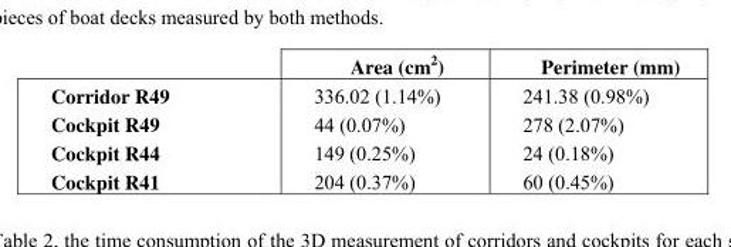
<table><thead><tr><td></td><td>Area (cm<sup>2</sup>)</td><td>Perimeter (mm)</td></tr></thead><tbody><tr><td>Corridor R49</td><td>336.02 (1.14%)</td><td>241.38 (0.98%)</td></tr><tr><td>Cockpit R49</td><td>44 (0.07%)</td><td>278 (2.07%)</td></tr><tr><td>Cockpit R44</td><td>149 (0.25%)</td><td>24 (0.18%)</td></tr><tr><td>Cockpit R41</td><td>204 (0.37%)</td><td>60 (0.45%)</td></tr></tbody></table>